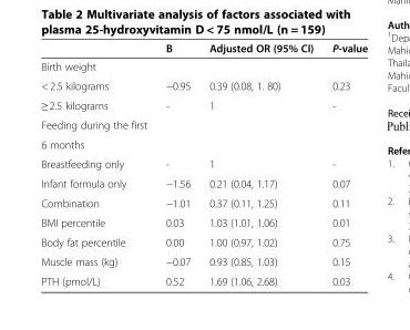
<table><thead><tr><td></td><td>B</td><td>Adjusted OR (95% CI)</td><td>P-value</td></tr></thead><tbody><tr><td colspan="4">Birth weight</td></tr><tr><td>&lt; 2.5 kilograms</td><td>−0.95</td><td>0.39 (0.08, 1. 80)</td><td>0.23</td></tr><tr><td>≥ 2.5 kilograms</td><td>-</td><td>1</td><td>-</td></tr><tr><td colspan="4">Feeding during the first</td></tr><tr><td colspan="4">6 months</td></tr><tr><td>Breastfeeding only</td><td>-</td><td>1</td><td>-</td></tr><tr><td>Infant formula only</td><td>−1.56</td><td>0.21 (0.04, 1.17)</td><td>0.07</td></tr><tr><td>Combination</td><td>−1.01</td><td>0.37 (0.11, 1.25)</td><td>0.11</td></tr><tr><td>BMI percentile</td><td>0.03</td><td>1.03 (1.01, 1.06)</td><td>0.01</td></tr><tr><td>Body fat percentile</td><td>0.00</td><td>1.00 (0.97, 1.02)</td><td>0.75</td></tr><tr><td>Muscle mass (kg)</td><td>−0.07</td><td>0.93 (0.85, 1.03)</td><td>0.15</td></tr><tr><td>PTH (pmol/L)</td><td>0.52</td><td>1.69 (1.06, 2.68)</td><td>0.03</td></tr></tbody></table>